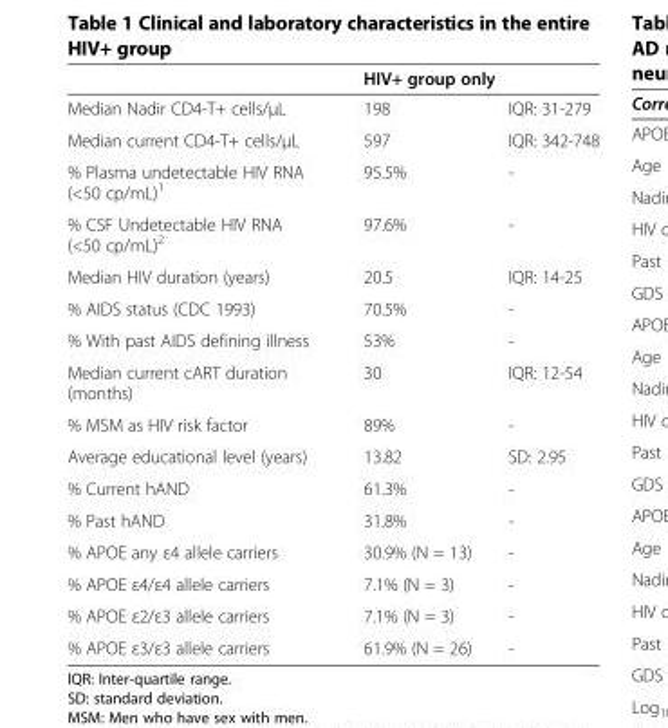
<table><thead><tr><td></td><td>HIV+ group only</td><td></td></tr></thead><tbody><tr><td>Median Nadir CD4-T+ cells/μL</td><td>198</td><td>IQR: 31-279</td></tr><tr><td>Median current CD4-T+ cells/μL</td><td>597</td><td>IQR: 342-748</td></tr><tr><td>% Plasma undetectable HIV RNA (&lt;50 cp/mL)<sup>1</sup></td><td>95.5%</td><td>-</td></tr><tr><td>% CSF Undetectable HIV RNA (&lt;50 cp/mL)<sup>2</sup></td><td>97.6%</td><td>-</td></tr><tr><td>Median HIV duration (years)</td><td>20.5</td><td>IQR: 14-25</td></tr><tr><td>% AIDS status (CDC 1993)</td><td>70.5%</td><td>-</td></tr><tr><td>% With past AIDS defining illness</td><td>53%</td><td>-</td></tr><tr><td>Median current cART duration (months)</td><td>30</td><td>IQR: 12-54</td></tr><tr><td>% MSM as HIV risk factor</td><td>89%</td><td>-</td></tr><tr><td>Average educational level (years)</td><td>13.82</td><td>SD: 2.95</td></tr><tr><td>% Current hAND</td><td>61.3%</td><td>-</td></tr><tr><td>% Past hAND</td><td>31.8%</td><td>-</td></tr><tr><td>% APOE any ε4 allele carriers</td><td>30.9% (N = 13)</td><td>-</td></tr><tr><td>% APOE ε4/ε4 allele carriers</td><td>7.1% (N = 3)</td><td>-</td></tr><tr><td>% APOE ε2/ε3 allele carriers</td><td>7.1% (N = 3)</td><td>-</td></tr><tr><td>% APOE ε3/ε3 allele carriers</td><td>61.9% (N = 26)</td><td>-</td></tr></tbody></table>